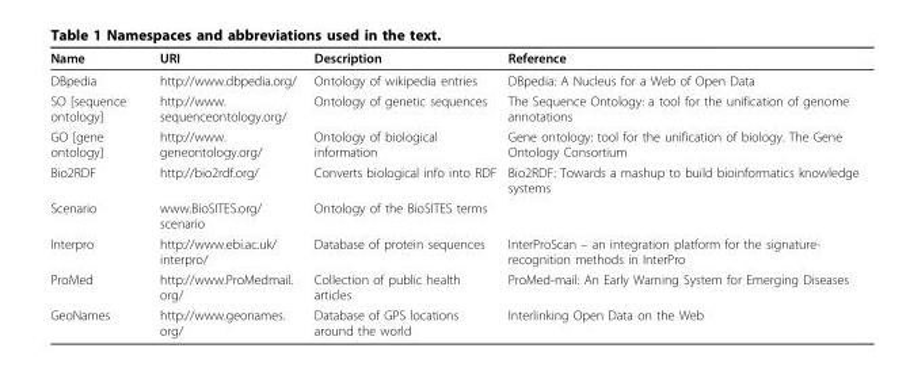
<table><thead><tr><td>Name</td><td>URI</td><td>Description</td><td>Reference</td></tr></thead><tbody><tr><td>DBpedia</td><td>http://www.dbpedia.org/</td><td>Ontology of wikipedia entries</td><td>DBpedia: A Nucleus for a Web of Open Data</td></tr><tr><td>SO [sequence ontology]</td><td>http://www. sequenceontology.org/</td><td>Ontology of genetic sequences</td><td>The Sequence Ontology: a tool for the unification of genome annotations</td></tr><tr><td>GO [gene ontology]</td><td>http://www. geneontology.org/</td><td>Ontology of biological information</td><td>Gene ontology: tool for the unification of biology. The Gene Ontology Consortium</td></tr><tr><td>Bio2RDF</td><td>http://bio2rdf.org/</td><td>Converts biological info into RDF</td><td>Bio2RDF: Towards a mashup to build bioinformatics knowledge systems</td></tr><tr><td>Scenario</td><td>www.BioSITES.org/ scenario</td><td>Ontology of the BioSITES terms</td><td></td></tr><tr><td>Interpro</td><td>http://www.ebi.ac.uk/ interpro/</td><td>Database of protein sequences</td><td>InterProScan – an integration platform for the signature- recognition methods in InterPro</td></tr><tr><td>ProMed</td><td>http://www.ProMedmail. org/</td><td>Collection of public health articles</td><td>ProMed-mail: An Early Warning System for Emerging Diseases</td></tr><tr><td>GeoNames</td><td>http://www.geonames. org/</td><td>Database of GPS locations around the world</td><td>Interlinking Open Data on the Web</td></tr></tbody></table>